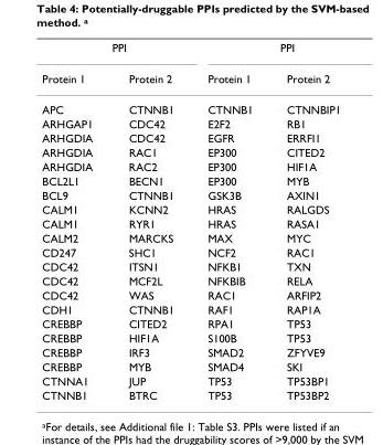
<table><thead><tr><td colspan="2">PPI</td><td colspan="2">PPI</td></tr><tr><td>Protein 1</td><td>Protein 2</td><td>Protein 1</td><td>Protein 2</td></tr></thead><tbody><tr><td>APC</td><td>CTNNB1</td><td>CTNNB1</td><td>CTNNBIP1</td></tr><tr><td>ARHGAP1</td><td>CDC42</td><td>E2F2</td><td>RB1</td></tr><tr><td>ARHGDIA</td><td>CDC42</td><td>EGFR</td><td>ERRFI1</td></tr><tr><td>ARHGDIA</td><td>RAC1</td><td>EP300</td><td>CITED2</td></tr><tr><td>ARHGDIA</td><td>RAC2</td><td>EP300</td><td>HIF1A</td></tr><tr><td>BCL2L1</td><td>BECN1</td><td>EP300</td><td>MYB</td></tr><tr><td>BCL9</td><td>CTNNB1</td><td>GSK3B</td><td>AXIN1</td></tr><tr><td>CALM1</td><td>KCNN2</td><td>HRAS</td><td>RALGDS</td></tr><tr><td>CALM1</td><td>RYR1</td><td>HRAS</td><td>RASA1</td></tr><tr><td>CALM2</td><td>MARCKS</td><td>MAX</td><td>MYC</td></tr><tr><td>CD247</td><td>SHC1</td><td>NCF2</td><td>RAC1</td></tr><tr><td>CDC42</td><td>ITSN1</td><td>NFKB1</td><td>TXN</td></tr><tr><td>CDC42</td><td>MCF2L</td><td>NFKBIB</td><td>RELA</td></tr><tr><td>CDC42</td><td>WAS</td><td>RAC1</td><td>ARFIP2</td></tr><tr><td>CDH1</td><td>CTNNB1</td><td>RAF1</td><td>RAP1A</td></tr><tr><td>CREBBP</td><td>CITED2</td><td>RPA1</td><td>TP53</td></tr><tr><td>CREBBP</td><td>HIF1A</td><td>S100B</td><td>TP53</td></tr><tr><td>CREBBP</td><td>IRF3</td><td>SMAD2</td><td>ZFYVE9</td></tr><tr><td>CREBBP</td><td>MYB</td><td>SMAD4</td><td>SKI</td></tr><tr><td>CTNNA1</td><td>JUP</td><td>TP53</td><td>TP53BP1</td></tr><tr><td>CTNNB1</td><td>BTRC</td><td>TP53</td><td>TP53BP2</td></tr></tbody></table>